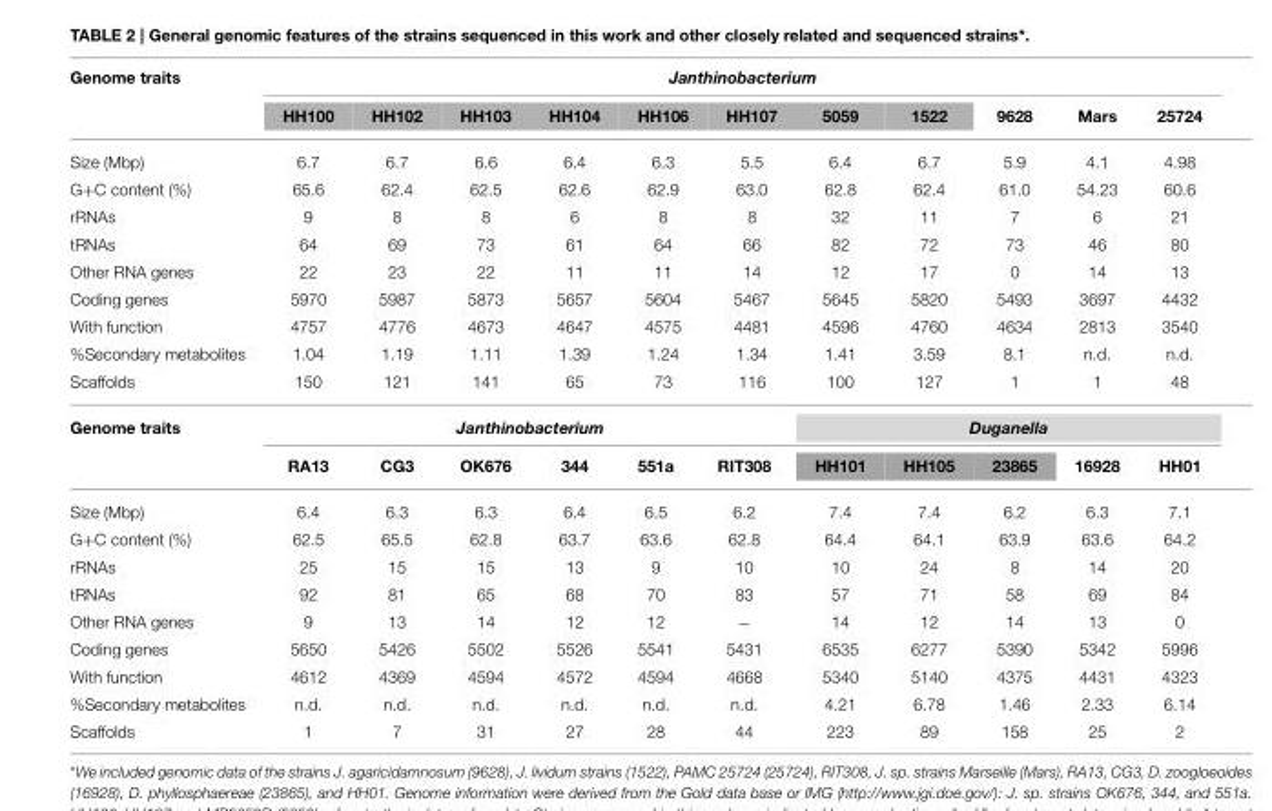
<table><thead><tr><td rowspan="2">Genome traits</td><td colspan="11">Janthinobacterium</td></tr><tr><td>HH100</td><td>HH102</td><td>HH103</td><td>HH104</td><td>HH106</td><td>HH107</td><td>5059</td><td>1522</td><td>9628</td><td>Mars</td><td>25724</td></tr></thead><tbody><tr><td>Size (Mbp)</td><td>6.7</td><td>6.7</td><td>6.6</td><td>6.4</td><td>6.3</td><td>5.5</td><td>6.4</td><td>6.7</td><td>5.9</td><td>4.1</td><td>4.98</td></tr><tr><td>G+C content (%)</td><td>65.6</td><td>62.4</td><td>62.5</td><td>62.6</td><td>62.9</td><td>63.0</td><td>62.8</td><td>62.4</td><td>61.0</td><td>54.23</td><td>60.6</td></tr><tr><td>rRNAs</td><td>9</td><td>8</td><td>8</td><td>6</td><td>8</td><td>8</td><td>32</td><td>11</td><td>7</td><td>6</td><td>21</td></tr><tr><td>tRNAs</td><td>64</td><td>69</td><td>73</td><td>61</td><td>64</td><td>66</td><td>82</td><td>72</td><td>73</td><td>46</td><td>80</td></tr><tr><td>Other RNA genes</td><td>22</td><td>23</td><td>22</td><td>11</td><td>11</td><td>14</td><td>12</td><td>17</td><td>0</td><td>14</td><td>13</td></tr><tr><td>Coding genes</td><td>5970</td><td>5987</td><td>5873</td><td>5657</td><td>5604</td><td>5467</td><td>5645</td><td>5820</td><td>5493</td><td>3697</td><td>4432</td></tr><tr><td>With function</td><td>4757</td><td>4776</td><td>4673</td><td>4647</td><td>4575</td><td>4481</td><td>4596</td><td>4760</td><td>4634</td><td>2813</td><td>3540</td></tr><tr><td>%Secondary metabolites</td><td>1.04</td><td>1.19</td><td>1.11</td><td>1.39</td><td>1.24</td><td>1.34</td><td>1.41</td><td>3.59</td><td>8.1</td><td>n.d.</td><td>n.d.</td></tr><tr><td>Scaffolds</td><td>150</td><td>121</td><td>141</td><td>65</td><td>73</td><td>116</td><td>100</td><td>127</td><td>1</td><td>1</td><td>48</td></tr><tr><td rowspan="2">Genome traits</td><td colspan="6">Janthinobacterium</td><td colspan="5">Duganella</td></tr><tr><td>RA13</td><td>CG3</td><td>OK676</td><td>344</td><td>551a</td><td>RIT308</td><td>HH101</td><td>HH105</td><td>23865</td><td>16928</td><td>HH01</td></tr><tr><td>Size (Mbp)</td><td>6.4</td><td>6.3</td><td>6.3</td><td>6.4</td><td>6.5</td><td>6.2</td><td>7.4</td><td>7.4</td><td>6.2</td><td>6.3</td><td>7.1</td></tr><tr><td>G+C content (%)</td><td>62.5</td><td>65.5</td><td>62.8</td><td>63.7</td><td>63.6</td><td>62.8</td><td>64.4</td><td>64.1</td><td>63.9</td><td>63.6</td><td>64.2</td></tr><tr><td>rRNAs</td><td>25</td><td>15</td><td>15</td><td>13</td><td>9</td><td>10</td><td>10</td><td>24</td><td>8</td><td>14</td><td>20</td></tr><tr><td>tRNAs</td><td>92</td><td>81</td><td>65</td><td>68</td><td>70</td><td>83</td><td>57</td><td>71</td><td>58</td><td>69</td><td>84</td></tr><tr><td>Other RNA genes</td><td>9</td><td>13</td><td>14</td><td>12</td><td>12</td><td>−</td><td>14</td><td>12</td><td>14</td><td>13</td><td>0</td></tr><tr><td>Coding genes</td><td>5650</td><td>5426</td><td>5502</td><td>5526</td><td>5541</td><td>5431</td><td>6535</td><td>6277</td><td>5390</td><td>5342</td><td>5996</td></tr><tr><td>With function</td><td>4612</td><td>4369</td><td>4594</td><td>4572</td><td>4594</td><td>4668</td><td>5340</td><td>5140</td><td>4375</td><td>4431</td><td>4323</td></tr><tr><td>%Secondary metabolites</td><td>n.d.</td><td>n.d.</td><td>n.d.</td><td>n.d.</td><td>n.d.</td><td>n.d.</td><td>4.21</td><td>6.78</td><td>1.46</td><td>2.33</td><td>6.14</td></tr><tr><td>Scaffolds</td><td>1</td><td>7</td><td>31</td><td>27</td><td>28</td><td>44</td><td>223</td><td>89</td><td>158</td><td>25</td><td>2</td></tr></tbody></table>